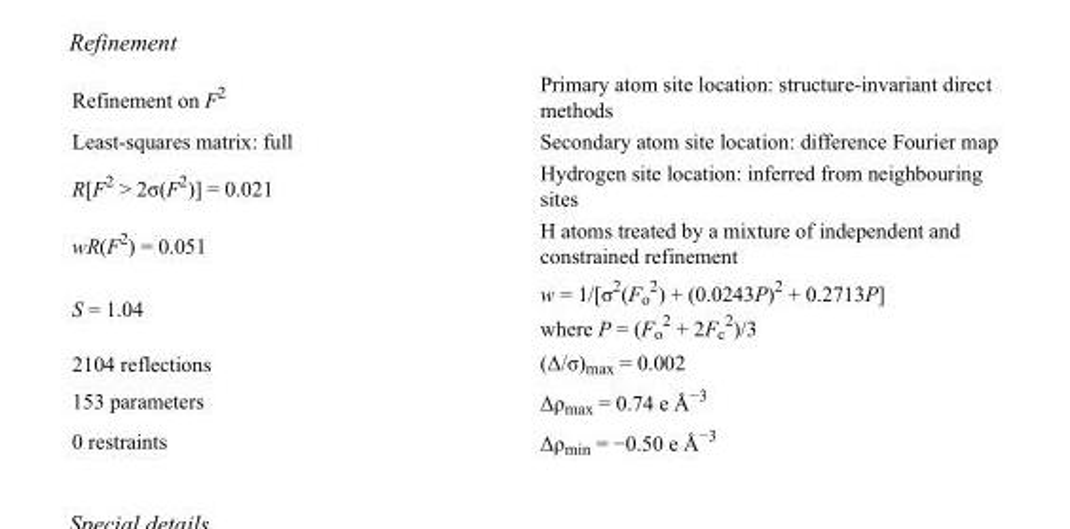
<table><tbody><tr><td>Refinement on F<sup>2</sup></td><td>Primary atom site location: structure-invariant direct methods</td></tr><tr><td>Least-squares matrix: full</td><td>Secondary atom site location: difference Fourier map</td></tr><tr><td>R[F<sup>2</sup> &gt; 2σ(F<sup>2</sup>)] = 0.021</td><td>Hydrogen site location: inferred from neighbouring sites</td></tr><tr><td>wR(F<sup>2</sup>) = 0.051</td><td>H atoms treated by a mixture of independent and constrained refinement</td></tr><tr><td>S = 1.04</td><td>w = 1/[σ<sup>2</sup>(F<sub>o</sub> <sup>2</sup>) + (0.0243P)<sup>2</sup> + 0.2713P] where P = (F<sub>o</sub> <sup>2</sup> + 2F<sub>c</sub> <sup>2</sup>)/3</td></tr><tr><td>2104 reflections</td><td>(Δ/σ)<sub>max</sub> = 0.002</td></tr><tr><td>153 parameters</td><td>Δρ<sub>max</sub> = 0.74 e Å<sup>−3</sup></td></tr><tr><td>0 restraints</td><td>Δρ<sub>min</sub> = −0.50 e Å<sup>−3</sup></td></tr></tbody></table>